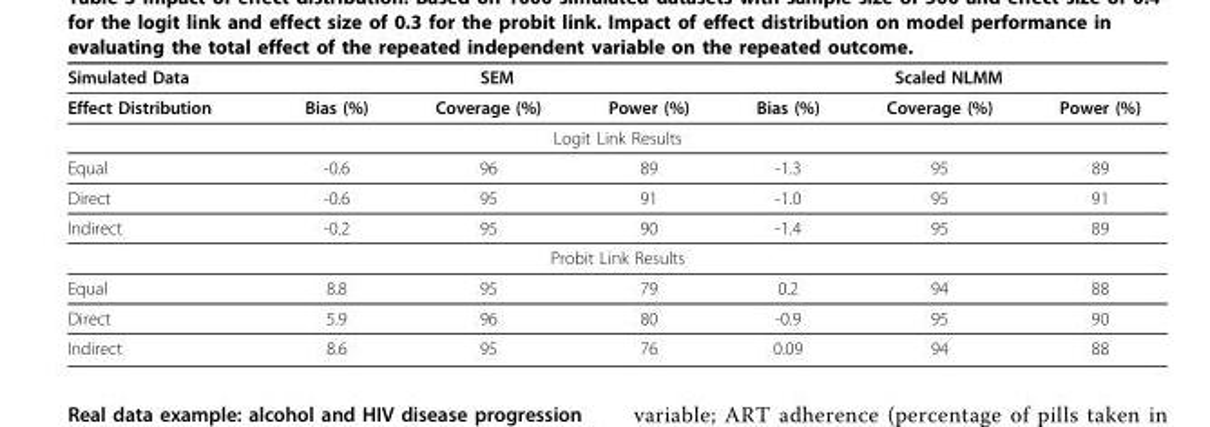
<table><thead><tr><td rowspan="2">Simulated Data Effect Distribution</td><td colspan="3">SEM</td><td colspan="3">Scaled NLMM</td></tr><tr><td>Bias (%)</td><td>Coverage (%)</td><td>Power (%)</td><td>Bias (%)</td><td>Coverage (%)</td><td>Power (%)</td></tr></thead><tbody><tr><td colspan="7">Logit Link Results</td></tr><tr><td>Equal</td><td>-0.6</td><td>96</td><td>89</td><td>-1.3</td><td>95</td><td>89</td></tr><tr><td>Direct</td><td>-0.6</td><td>95</td><td>91</td><td>-1.0</td><td>95</td><td>91</td></tr><tr><td>Indirect</td><td>-0.2</td><td>95</td><td>90</td><td>-1.4</td><td>95</td><td>89</td></tr><tr><td colspan="7">Probit Link Results</td></tr><tr><td>Equal</td><td>8.8</td><td>95</td><td>79</td><td>0.2</td><td>94</td><td>88</td></tr><tr><td>Direct</td><td>5.9</td><td>96</td><td>80</td><td>-0.9</td><td>95</td><td>90</td></tr><tr><td>Indirect</td><td>8.6</td><td>95</td><td>76</td><td>0.09</td><td>94</td><td>88</td></tr></tbody></table>